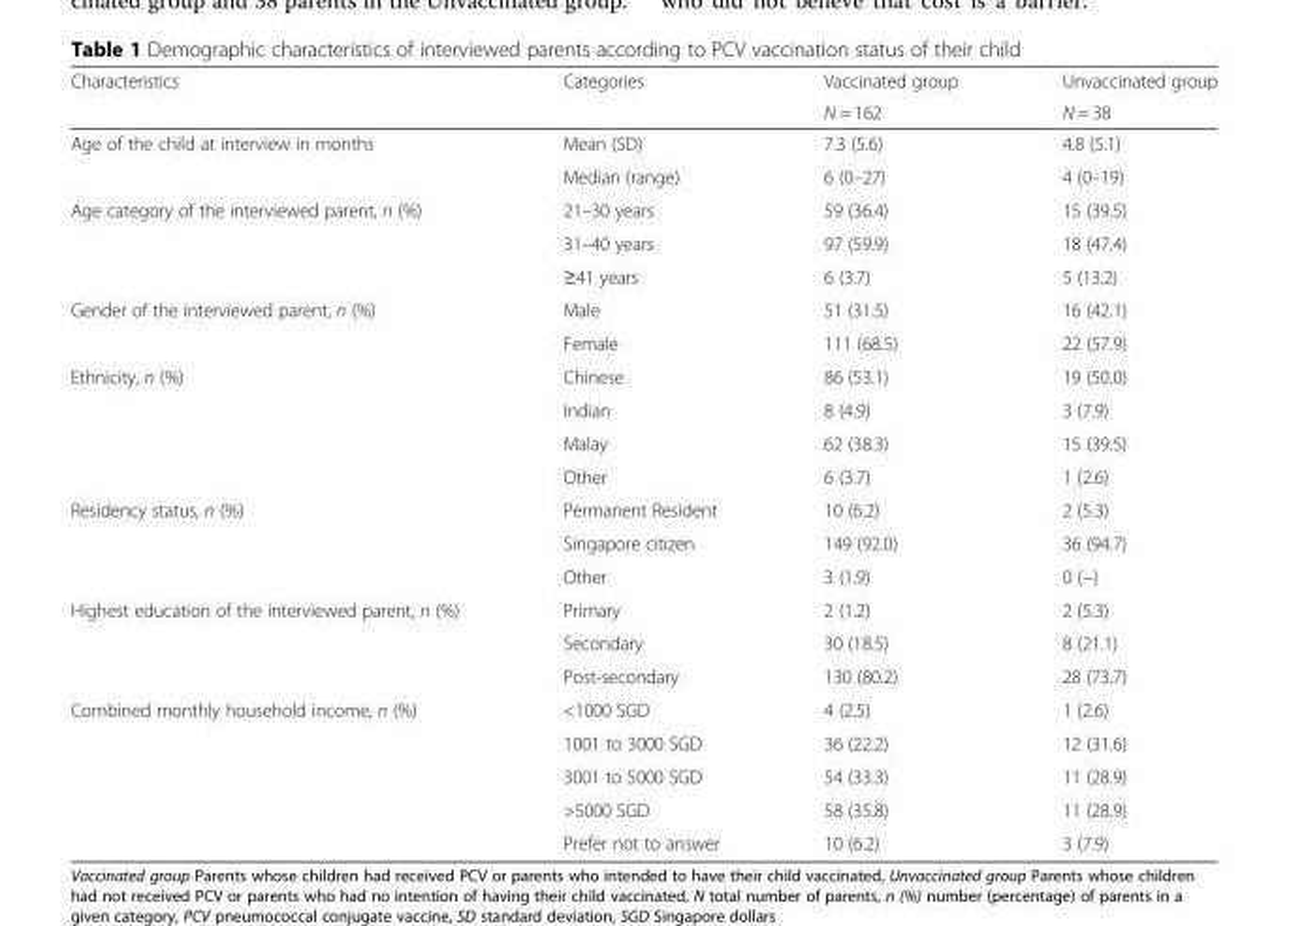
<table><thead><tr><td rowspan="2">Characteristics</td><td rowspan="2">Categories</td><td rowspan="2">Vaccinated group N = 162</td><td rowspan="2">Unvaccinated group N = 38</td></tr><tr></tr></thead><tbody><tr><td rowspan="2">Age of the child at interview in months</td><td>Mean (SD)</td><td>7.3 (5.6)</td><td>4.8 (5.1)</td></tr><tr><td>Median (range)</td><td>6 (0–27)</td><td>4 (0–19)</td></tr><tr><td rowspan="3">Age category of the interviewed parent, n (%)</td><td>21–30 years</td><td>59 (36.4)</td><td>15 (39.5)</td></tr><tr><td>31–40 years</td><td>97 (59.9)</td><td>18 (47.4)</td></tr><tr><td>≥41 years</td><td>6 (3.7)</td><td>5 (13.2)</td></tr><tr><td rowspan="2">Gender of the interviewed parent, n (%)</td><td>Male</td><td>51 (31.5)</td><td>16 (42.1)</td></tr><tr><td>Female</td><td>111 (68.5)</td><td>22 (57.9)</td></tr><tr><td rowspan="4">Ethnicity, n (%)</td><td>Chinese</td><td>86 (53.1)</td><td>19 (50.0)</td></tr><tr><td>Indian</td><td>8 (4.9)</td><td>3 (7.9)</td></tr><tr><td>Malay</td><td>62 (38.3)</td><td>15 (39.5)</td></tr><tr><td>Other</td><td>6 (3.7)</td><td>1 (2.6)</td></tr><tr><td rowspan="3">Residency status, n (%)</td><td>Permanent Resident</td><td>10 (6.2)</td><td>2 (5.3)</td></tr><tr><td>Singapore citizen</td><td>149 (92.0)</td><td>36 (94.7)</td></tr><tr><td>Other</td><td>3 (1.9)</td><td>0 (−)</td></tr><tr><td rowspan="3">Highest education of the interviewed parent, n (%)</td><td>Primary</td><td>2 (1.2)</td><td>2 (5.3)</td></tr><tr><td>Secondary</td><td>30 (18.5)</td><td>8 (21.1)</td></tr><tr><td>Post-secondary</td><td>130 (80.2)</td><td>28 (73.7)</td></tr><tr><td rowspan="5">Combined monthly household income, n (%)</td><td>&lt;1000 SGD</td><td>4 (2.5)</td><td>1 (2.6)</td></tr><tr><td>1001 to 3000 SGD</td><td>36 (22.2)</td><td>12 (31.6)</td></tr><tr><td>3001 to 5000 SGD</td><td>54 (33.3)</td><td>11 (28.9)</td></tr><tr><td>&gt;5000 SGD</td><td>58 (35.8)</td><td>11 (28.9)</td></tr><tr><td>Prefer not to answer</td><td>10 (6.2)</td><td>3 (7.9)</td></tr></tbody></table>